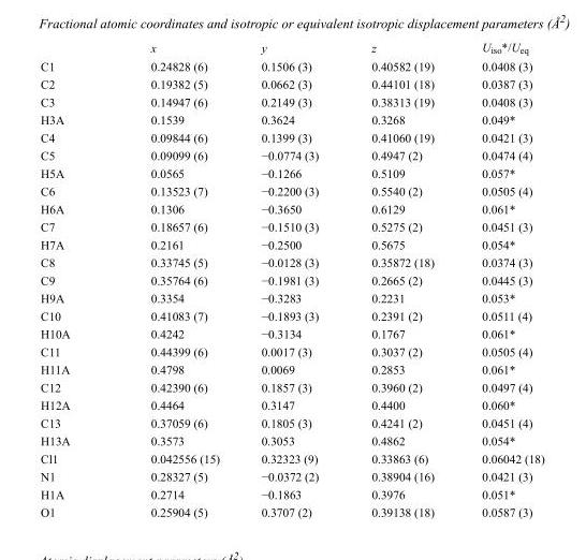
<table><thead><tr><td></td><td>x</td><td>y</td><td>z</td><td>U<sub>iso</sub>*/U<sub>eq</sub></td></tr></thead><tbody><tr><td>C1</td><td>0.24828 (6)</td><td>0.1506 (3)</td><td>0.40582 (19)</td><td>0.0408 (3)</td></tr><tr><td>C2</td><td>0.19382 (5)</td><td>0.0662 (3)</td><td>0.44101 (18)</td><td>0.0387 (3)</td></tr><tr><td>C3</td><td>0.14947 (6)</td><td>0.2149 (3)</td><td>0.38313 (19)</td><td>0.0408 (3)</td></tr><tr><td>H3A</td><td>0.1539</td><td>0.3624</td><td>0.3268</td><td>0.049*</td></tr><tr><td>C4</td><td>0.09844 (6)</td><td>0.1399 (3)</td><td>0.41060 (19)</td><td>0.0421 (3)</td></tr><tr><td>C5</td><td>0.09099 (6)</td><td>−0.0774 (3)</td><td>0.4947 (2)</td><td>0.0474 (4)</td></tr><tr><td>H5A</td><td>0.0565</td><td>−0.1266</td><td>0.5109</td><td>0.057*</td></tr><tr><td>C6</td><td>0.13523 (7)</td><td>−0.2200 (3)</td><td>0.5540 (2)</td><td>0.0505 (4)</td></tr><tr><td>H6A</td><td>0.1306</td><td>−0.3650</td><td>0.6129</td><td>0.061*</td></tr><tr><td>C7</td><td>0.18657 (6)</td><td>−0.1510 (3)</td><td>0.5275 (2)</td><td>0.0451 (3)</td></tr><tr><td>H7A</td><td>0.2161</td><td>−0.2500</td><td>0.5675</td><td>0.054*</td></tr><tr><td>C8</td><td>0.33745 (5)</td><td>−0.0128 (3)</td><td>0.35872 (18)</td><td>0.0374 (3)</td></tr><tr><td>C9</td><td>0.35764 (6)</td><td>−0.1981 (3)</td><td>0.2665 (2)</td><td>0.0445 (3)</td></tr><tr><td>H9A</td><td>0.3354</td><td>−0.3283</td><td>0.2231</td><td>0.053*</td></tr><tr><td>C10</td><td>0.41083 (7)</td><td>−0.1893 (3)</td><td>0.2391 (2)</td><td>0.0511 (4)</td></tr><tr><td>H10A</td><td>0.4242</td><td>−0.3134</td><td>0.1767</td><td>0.061*</td></tr><tr><td>C11</td><td>0.44399 (6)</td><td>0.0017 (3)</td><td>0.3037 (2)</td><td>0.0505 (4)</td></tr><tr><td>H11A</td><td>0.4798</td><td>0.0069</td><td>0.2853</td><td>0.061*</td></tr><tr><td>C12</td><td>0.42390 (6)</td><td>0.1857 (3)</td><td>0.3960 (2)</td><td>0.0497 (4)</td></tr><tr><td>H12A</td><td>0.4464</td><td>0.3147</td><td>0.4400</td><td>0.060*</td></tr><tr><td>C13</td><td>0.37059 (6)</td><td>0.1805 (3)</td><td>0.4241 (2)</td><td>0.0451 (4)</td></tr><tr><td>H13A</td><td>0.3573</td><td>0.3053</td><td>0.4862</td><td>0.054*</td></tr><tr><td>Cl1</td><td>0.042556 (15)</td><td>0.32323 (9)</td><td>0.33863 (6)</td><td>0.06042 (18)</td></tr><tr><td>N1</td><td>0.28327 (5)</td><td>−0.0372 (2)</td><td>0.38904 (16)</td><td>0.0421 (3)</td></tr><tr><td>H1A</td><td>0.2714</td><td>−0.1863</td><td>0.3976</td><td>0.051*</td></tr><tr><td>O1</td><td>0.25904 (5)</td><td>0.3707 (2)</td><td>0.39138 (18)</td><td>0.0587 (3)</td></tr></tbody></table>